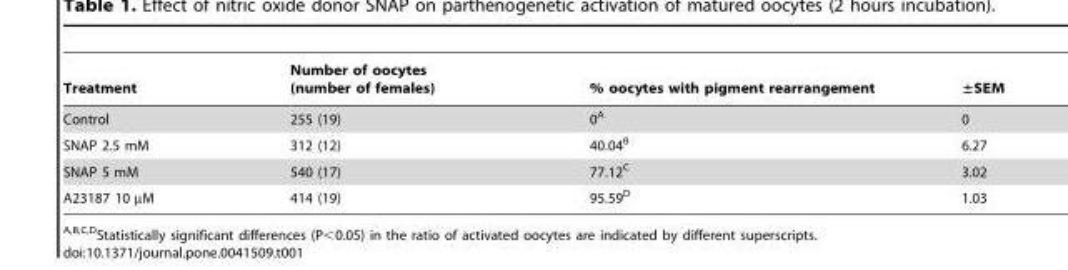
<table><thead><tr><td>Treatment</td><td>Number of oocytes (number of females)</td><td>% oocytes with pigment rearrangement</td><td>±SEM</td></tr></thead><tbody><tr><td>Control</td><td>255 (19)</td><td>0<sup>A</sup></td><td>0</td></tr><tr><td>SNAP 2.5 mM</td><td>312 (12)</td><td>40.04<sup>B</sup></td><td>6.27</td></tr><tr><td>SNAP 5 mM</td><td>540 (17)</td><td>77.12<sup>C</sup></td><td>3.02</td></tr><tr><td>A23187 10 µM</td><td>414 (19)</td><td>95.59<sup>D</sup></td><td>1.03</td></tr></tbody></table>